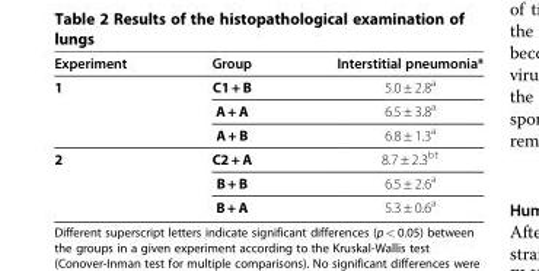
<table><thead><tr><td>Experiment</td><td>Group</td><td>Interstitial pneumonia*</td></tr></thead><tbody><tr><td rowspan="3">1</td><td>C1 + B</td><td>5.0 ± 2.8<sup>a</sup></td></tr><tr><td>A + A</td><td>6.5 ± 3.8<sup>a</sup></td></tr><tr><td>A + B</td><td>6.8 ± 1.3<sup>a</sup></td></tr><tr><td rowspan="3">2</td><td>C2 + A</td><td>8.7 ± 2.3<sup>b†</sup></td></tr><tr><td>B + B</td><td>6.5 ± 2.6<sup>a</sup></td></tr><tr><td>B + A</td><td>5.3 ± 0.6<sup>a</sup></td></tr></tbody></table>